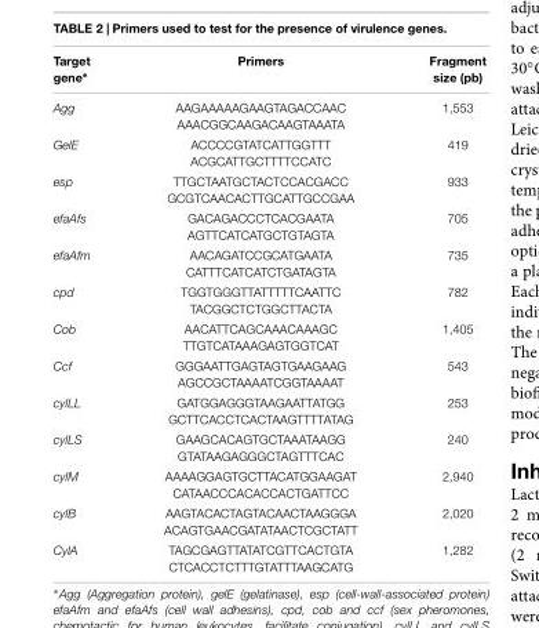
<table><thead><tr><td>Target gene∗</td><td>Primers</td><td>Fragment size (pb)</td></tr></thead><tbody><tr><td>Agg</td><td>AAGAAAAAGAAGTAGACCAAC AAACGGCAAGACAAGTAAATA</td><td>1,553</td></tr><tr><td>GelE</td><td>ACCCCGTATCATTGGTTT ACGCATTGCTTTTCCATC</td><td>419</td></tr><tr><td>esp</td><td>TTGCTAATGCTACTCCACGACC GCGTCAACACTTGCATTGCCGAA</td><td>933</td></tr><tr><td>efaAfs</td><td>GACAGACCCTCACGAATA AGTTCATCATGCTGTAGTA</td><td>705</td></tr><tr><td>efaAfm</td><td>AACAGATCCGCATGAATA CATTTCATCATCTGATAGTA</td><td>735</td></tr><tr><td>cpd</td><td>TGGTGGGTTATTTTTCAATTC TACGGCTCTGGCTTACTA</td><td>782</td></tr><tr><td>Cob</td><td>AACATTCAGCAAACAAAGC TTGTCATAAAGAGTGGTCAT</td><td>1,405</td></tr><tr><td>Ccf</td><td>GGGAATTGAGTAGTGAAGAAG AGCCGCTAAAATCGGTAAAAT</td><td>543</td></tr><tr><td>cylLL</td><td>GATGGAGGGTAAGAATTATGG GCTTCACCTCACTAAGTTTTATAG</td><td>253</td></tr><tr><td>cylLS</td><td>GAAGCACAGTGCTAAATAAGG GTATAAGAGGGCTAGTTTCAC</td><td>240</td></tr><tr><td>cylM</td><td>AAAAGGAGTGCTTACATGGAAGAT CATAACCCACACCACTGATTCC</td><td>2,940</td></tr><tr><td>cylB</td><td>AAGTACACTAGTACAACTAAGGGA ACAGTGAACGATATAACTCGCTATT</td><td>2,020</td></tr><tr><td>CylA</td><td>TAGCGAGTTATATCGTTCACTGTA CTCACCTCTTTGTATTTAAGCATG</td><td>1,282</td></tr></tbody></table>